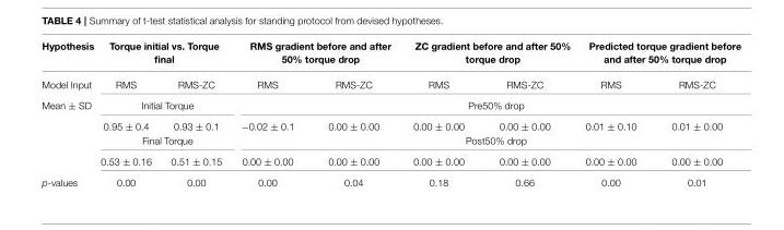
<table><thead><tr><td rowspan="2">Hypothesis Model Input</td><td colspan="2">Torque initial vs. Torque final</td><td colspan="2">RMS gradient before and after 50% torque drop</td><td colspan="2">ZC gradient before and after 50% torque drop</td><td colspan="2">Predicted torque gradient before and after 50% torque drop</td></tr><tr><td>RMS</td><td>RMS-ZC</td><td>RMS</td><td>RMS-ZC</td><td>RMS</td><td>RMS-ZC</td><td>RMS</td><td>RMS-ZC</td></tr></thead><tbody><tr><td rowspan="4">Mean ± SD</td><td colspan="2">Initial Torque</td><td colspan="6">Pre50% drop</td></tr><tr><td>0.95 ± 0.4</td><td>0.93 ± 0.1</td><td>−0.02 ± 0.1</td><td>0.00 ± 0.00</td><td>0.00 ± 0.00</td><td>0.00 ± 0.00</td><td>0.01 ± 0.10</td><td>0.01 ± 0.00</td></tr><tr><td colspan="2">Final Torque</td><td colspan="6">Post50% drop</td></tr><tr><td>0.53 ± 0.16</td><td>0.51 ± 0.15</td><td>0.00 ± 0.00</td><td>0.00 ± 0.00</td><td>0.00 ± 0.00</td><td>0.00 ± 0.00</td><td>0.00 ± 0.00</td><td>0.00 ± 0.00</td></tr><tr><td>p-values</td><td>0.00</td><td>0.00</td><td>0.00</td><td>0.04</td><td>0.18</td><td>0.66</td><td>0.00</td><td>0.01</td></tr></tbody></table>